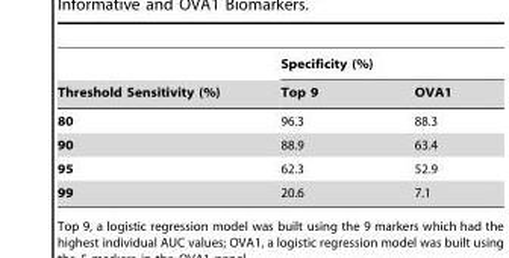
<table><thead><tr><td rowspan="2">Threshold Sensitivity (%)</td><td colspan="2">Specificity (%)</td></tr><tr><td>Top 9</td><td>OVA1</td></tr></thead><tbody><tr><td>80</td><td>96.3</td><td>88.3</td></tr><tr><td>90</td><td>88.9</td><td>63.4</td></tr><tr><td>95</td><td>62.3</td><td>52.9</td></tr><tr><td>99</td><td>20.6</td><td>7.1</td></tr></tbody></table>